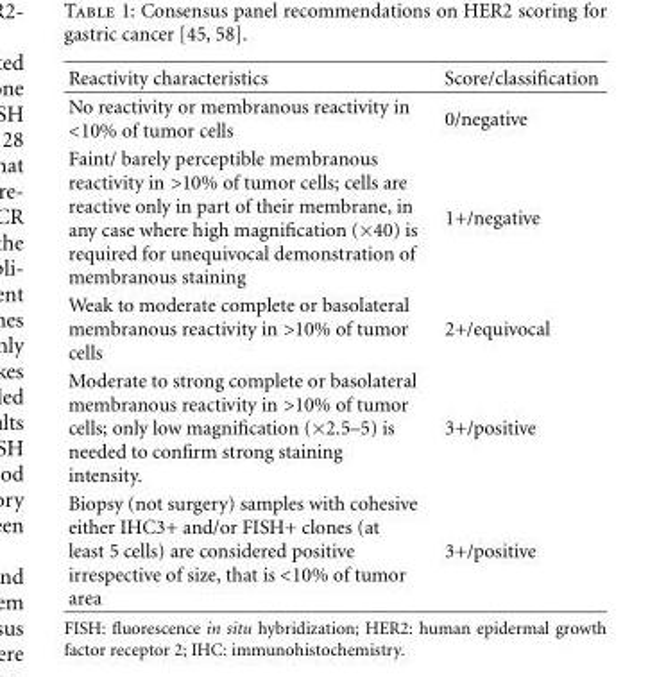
<table><thead><tr><td>Reactivity characteristics</td><td>Score/classification</td></tr></thead><tbody><tr><td>No reactivity or membranous reactivity in &lt;10% of tumor cells</td><td>0/negative</td></tr><tr><td>Faint/ barely perceptible membranous reactivity in &gt;10% of tumor cells; cells are reactive only in part of their membrane, in any case where high magnification (×40) is required for unequivocal demonstration of membranous staining</td><td>1+/negative</td></tr><tr><td>Weak to moderate complete or basolateral membranous reactivity in &gt;10% of tumor cells</td><td>2+/equivocal</td></tr><tr><td>Moderate to strong complete or basolateral membranous reactivity in &gt;10% of tumor cells; only low magnification (×2.5–5) is needed to confirm strong staining intensity.</td><td>3+/positive</td></tr><tr><td>Biopsy (not surgery) samples with cohesive either IHC3+ and/or FISH+ clones (at least 5 cells) are considered positive irrespective of size, that is &lt;10% of tumor area</td><td>3+/positive</td></tr></tbody></table>